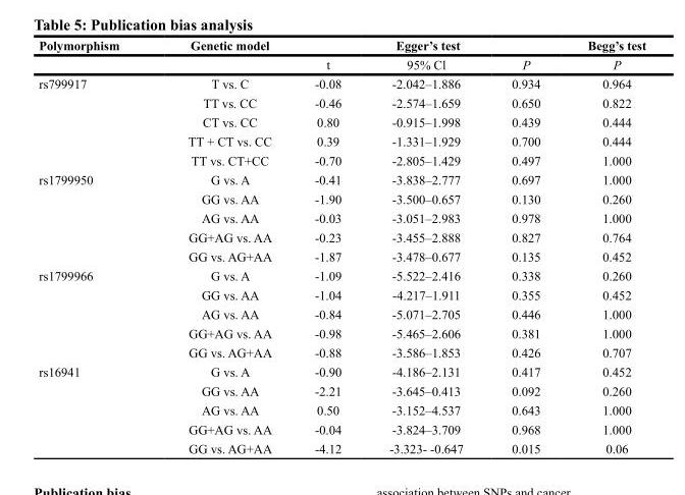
<table><thead><tr><td rowspan="2">Polymorphism</td><td rowspan="2">Genetic model</td><td colspan="3">Egger’s test</td><td rowspan="2">Begg’s test P</td></tr><tr><td>t</td><td>95% Cl</td><td>P</td></tr></thead><tbody><tr><td rowspan="5">rs799917</td><td>T vs. C</td><td>-0.08</td><td>-2.042–1.886</td><td>0.934</td><td>0.964</td></tr><tr><td>TT vs. CC</td><td>-0.46</td><td>-2.574–1.659</td><td>0.650</td><td>0.822</td></tr><tr><td>CT vs. CC</td><td>0.80</td><td>-0.915–1.998</td><td>0.439</td><td>0.444</td></tr><tr><td>TT + CT vs. CC</td><td>0.39</td><td>-1.331–1.929</td><td>0.700</td><td>0.444</td></tr><tr><td>TT vs. CT+CC</td><td>-0.70</td><td>-2.805–1.429</td><td>0.497</td><td>1.000</td></tr><tr><td rowspan="5">rs1799950</td><td>G vs. A</td><td>-0.41</td><td>-3.838–2.777</td><td>0.697</td><td>1.000</td></tr><tr><td>GG vs. AA</td><td>-1.90</td><td>-3.500–0.657</td><td>0.130</td><td>0.260</td></tr><tr><td>AG vs. AA</td><td>-0.03</td><td>-3.051–2.983</td><td>0.978</td><td>1.000</td></tr><tr><td>GG+AG vs. AA</td><td>-0.23</td><td>-3.455–2.888</td><td>0.827</td><td>0.764</td></tr><tr><td>GG vs. AG+AA</td><td>-1.87</td><td>-3.478–0.677</td><td>0.135</td><td>0.452</td></tr><tr><td rowspan="5">rs1799966</td><td>G vs. A</td><td>-1.09</td><td>-5.522–2.416</td><td>0.338</td><td>0.260</td></tr><tr><td>GG vs. AA</td><td>-1.04</td><td>-4.217–1.911</td><td>0.355</td><td>0.452</td></tr><tr><td>AG vs. AA</td><td>-0.84</td><td>-5.071–2.705</td><td>0.446</td><td>1.000</td></tr><tr><td>GG+AG vs. AA</td><td>-0.98</td><td>-5.465–2.606</td><td>0.381</td><td>1.000</td></tr><tr><td>GG vs. AG+AA</td><td>-0.88</td><td>-3.586–1.853</td><td>0.426</td><td>0.707</td></tr><tr><td rowspan="5">rs16941</td><td>G vs. A</td><td>-0.90</td><td>-4.186–2.131</td><td>0.417</td><td>0.452</td></tr><tr><td>GG vs. AA</td><td>-2.21</td><td>-3.645–0.413</td><td>0.092</td><td>0.260</td></tr><tr><td>AG vs. AA</td><td>0.50</td><td>-3.152–4.537</td><td>0.643</td><td>1.000</td></tr><tr><td>GG+AG vs. AA</td><td>-0.04</td><td>-3.824–3.709</td><td>0.968</td><td>1.000</td></tr><tr><td>GG vs. AG+AA</td><td>-4.12</td><td>-3.323- -0.647</td><td>0.015</td><td>0.06</td></tr></tbody></table>